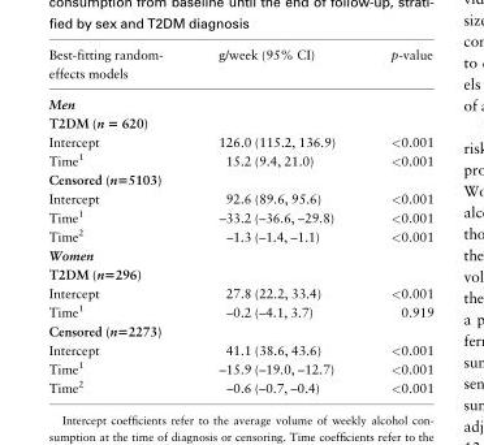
<table><thead><tr><td>Best-fitting random- effects models</td><td>g/week (95% CI)</td><td>p-value</td></tr></thead><tbody><tr><td colspan="3">Men</td></tr><tr><td colspan="3">T2DM (n = 620)</td></tr><tr><td>Intercept</td><td>126.0 (115.2, 136.9)</td><td>&lt;0.001</td></tr><tr><td>Time<sup>1</sup></td><td>15.2 (9.4, 21.0)</td><td>&lt;0.001</td></tr><tr><td colspan="3">Censored (n=5103)</td></tr><tr><td>Intercept</td><td>92.6 (89.6, 95.6)</td><td>&lt;0.001</td></tr><tr><td>Time<sup>1</sup></td><td>–33.2 (–36.6, –29.8)</td><td>&lt;0.001</td></tr><tr><td>Time<sup>2</sup></td><td>–1.3 (–1.4, –1.1)</td><td>&lt;0.001</td></tr><tr><td colspan="3">Women</td></tr><tr><td colspan="3">T2DM (n=296)</td></tr><tr><td>Intercept</td><td>27.8 (22.2, 33.4)</td><td>&lt;0.001</td></tr><tr><td>Time<sup>1</sup></td><td>–0.2 (–4.1, 3.7)</td><td>0.919</td></tr><tr><td colspan="3">Censored (n=2273)</td></tr><tr><td>Intercept</td><td>41.1 (38.6, 43.6)</td><td>&lt;0.001</td></tr><tr><td>Time<sup>1</sup></td><td>–15.9 (–19.0, –12.7)</td><td>&lt;0.001</td></tr><tr><td>Time<sup>2</sup></td><td>–0.6 (–0.7, –0.4)</td><td>&lt;0.001</td></tr></tbody></table>